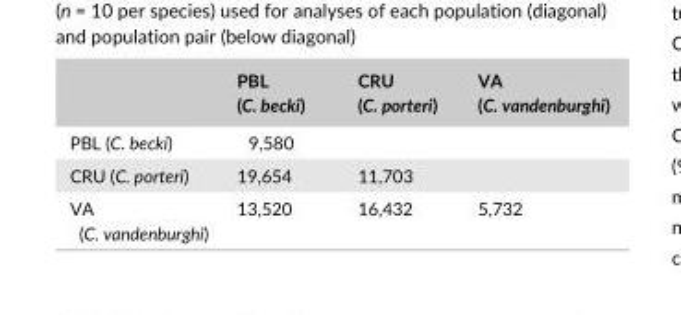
<table><thead><tr><td></td><td>PBL (C. becki)</td><td>CRU (C. porteri)</td><td>VA (C. vandenburghi)</td></tr></thead><tbody><tr><td>PBL (C. becki)</td><td>9,580</td><td></td><td></td></tr><tr><td>CRU (C. porteri)</td><td>19,654</td><td>11,703</td><td></td></tr><tr><td>VA (C. vandenburghi)</td><td>13,520</td><td>16,432</td><td>5,732</td></tr></tbody></table>